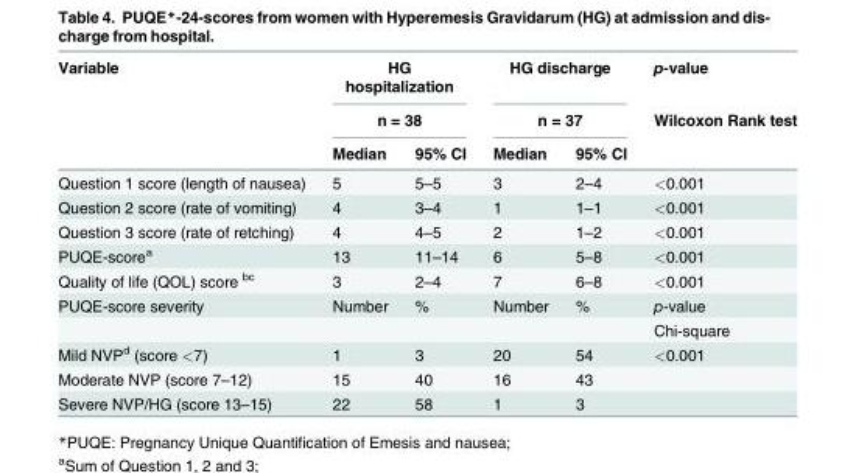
<table><thead><tr><td rowspan="3">Variable</td><td rowspan="2" colspan="2">HG hospitalization n = 38</td><td rowspan="2" colspan="2">HG discharge n = 37</td><td rowspan="3">p-value Wilcoxon Rank test</td></tr><tr></tr><tr><td>Median</td><td>95% CI</td><td>Median</td><td>95% CI</td></tr></thead><tbody><tr><td>Question 1 score (length of nausea)</td><td>5</td><td>5–5</td><td>3</td><td>2–4</td><td>&lt;0.001</td></tr><tr><td>Question 2 score (rate of vomiting)</td><td>4</td><td>3–4</td><td>1</td><td>1–1</td><td>&lt;0.001</td></tr><tr><td>Question 3 score (rate of retching)</td><td>4</td><td>4–5</td><td>2</td><td>1–2</td><td>&lt;0.001</td></tr><tr><td>PUQE-score<sup>a</sup></td><td>13</td><td>11–14</td><td>6</td><td>5–8</td><td>&lt;0.001</td></tr><tr><td>Quality of life (QOL) score <sup>bc</sup></td><td>3</td><td>2–4</td><td>7</td><td>6–8</td><td>&lt;0.001</td></tr><tr><td rowspan="2">PUQE-score severity</td><td>Number</td><td>%</td><td>Number</td><td>%</td><td>p-value</td></tr><tr><td></td><td></td><td></td><td></td><td>Chi-square</td></tr><tr><td>Mild NVP<sup>d</sup> (score &lt;7)</td><td>1</td><td>3</td><td>20</td><td>54</td><td>&lt;0.001</td></tr><tr><td>Moderate NVP (score 7–12)</td><td>15</td><td>40</td><td>16</td><td>43</td><td></td></tr><tr><td>Severe NVP/HG (score 13–15)</td><td>22</td><td>58</td><td>1</td><td>3</td><td></td></tr></tbody></table>